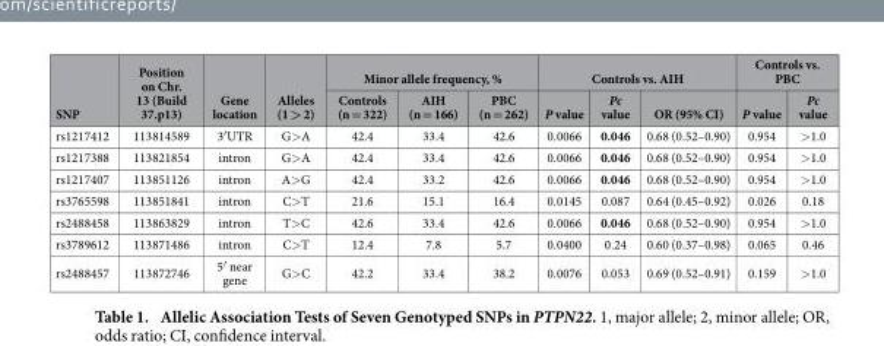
<table><thead><tr><td rowspan="2">SNP</td><td rowspan="2">Position on Chr. 13 (Build 37.p13)</td><td rowspan="2">Gene location</td><td rowspan="2">Alleles (1 &gt; 2)</td><td colspan="3">Minor allele frequency, %</td><td colspan="3">Controls vs. AIH</td><td colspan="2">Controls vs. PBC</td></tr><tr><td>Controls (n = 322)</td><td>AIH (n = 166)</td><td>PBC (n = 262)</td><td>P value</td><td>Pc value</td><td>OR (95% CI)</td><td>P value</td><td>Pc value</td></tr></thead><tbody><tr><td>rs1217412</td><td>113814589</td><td>3′ UTR</td><td>G&gt; A</td><td>42.4</td><td>33.4</td><td>42.6</td><td>0.0066</td><td>0.046</td><td>0.68 (0.52–0.90)</td><td>0.954</td><td>&gt; 1.0</td></tr><tr><td>rs1217388</td><td>113821854</td><td>intron</td><td>G&gt; A</td><td>42.4</td><td>33.4</td><td>42.6</td><td>0.0066</td><td>0.046</td><td>0.68 (0.52–0.90)</td><td>0.954</td><td>&gt; 1.0</td></tr><tr><td>rs1217407</td><td>113851126</td><td>intron</td><td>A&gt; G</td><td>42.4</td><td>33.2</td><td>42.6</td><td>0.0066</td><td>0.046</td><td>0.68 (0.52–0.90)</td><td>0.954</td><td>&gt; 1.0</td></tr><tr><td>rs3765598</td><td>113851841</td><td>intron</td><td>C&gt; T</td><td>21.6</td><td>15.1</td><td>16.4</td><td>0.0145</td><td>0.087</td><td>0.64 (0.45–0.92)</td><td>0.026</td><td>0.18</td></tr><tr><td>rs2488458</td><td>113863829</td><td>intron</td><td>T&gt; C</td><td>42.6</td><td>33.4</td><td>42.6</td><td>0.0066</td><td>0.046</td><td>0.68 (0.52–0.90)</td><td>0.954</td><td>&gt; 1.0</td></tr><tr><td>rs3789612</td><td>113871486</td><td>intron</td><td>C&gt; T</td><td>12.4</td><td>7.8</td><td>5.7</td><td>0.0400</td><td>0.24</td><td>0.60 (0.37–0.98)</td><td>0.065</td><td>0.46</td></tr><tr><td>rs2488457</td><td>113872746</td><td>5′ near gene</td><td>G&gt; C</td><td>42.2</td><td>33.4</td><td>38.2</td><td>0.0076</td><td>0.053</td><td>0.69 (0.52–0.91)</td><td>0.159</td><td>&gt; 1.0</td></tr></tbody></table>